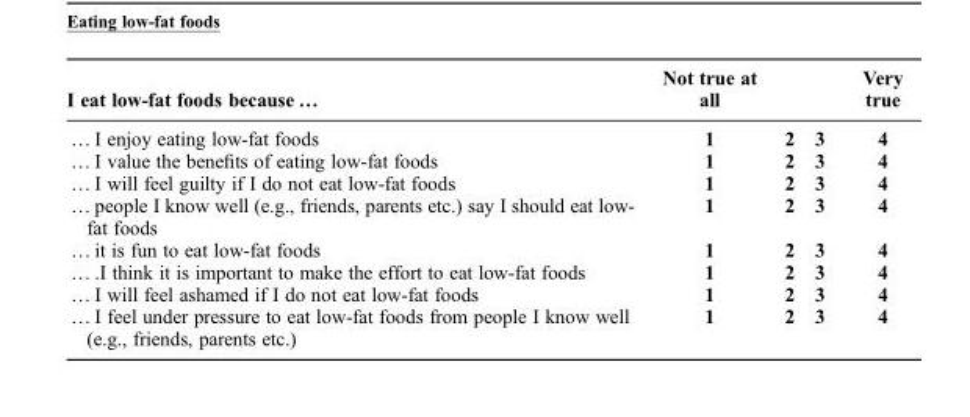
<table><thead><tr><td>I eat low-fat foods because …</td><td>Not true at all</td><td></td><td></td><td>Very true</td></tr></thead><tbody><tr><td>… I enjoy eating low-fat foods</td><td>1</td><td>2</td><td>3</td><td>4</td></tr><tr><td>… I value the benefits of eating low-fat foods</td><td>1</td><td>2</td><td>3</td><td>4</td></tr><tr><td>… I will feel guilty if I do not eat low-fat foods</td><td>1</td><td>2</td><td>3</td><td>4</td></tr><tr><td>… people I know well (e.g., friends, parents etc.) say I should eat low- fat foods</td><td>1</td><td>2</td><td>3</td><td>4</td></tr><tr><td>… it is fun to eat low-fat foods</td><td>1</td><td>2</td><td>3</td><td>4</td></tr><tr><td>… .I think it is important to make the effort to eat low-fat foods</td><td>1</td><td>2</td><td>3</td><td>4</td></tr><tr><td>… I will feel ashamed if I do not eat low-fat foods</td><td>1</td><td>2</td><td>3</td><td>4</td></tr><tr><td>… I feel under pressure to eat low-fat foods from people I know well (e.g., friends, parents etc.)</td><td>1</td><td>2</td><td>3</td><td>4</td></tr></tbody></table>